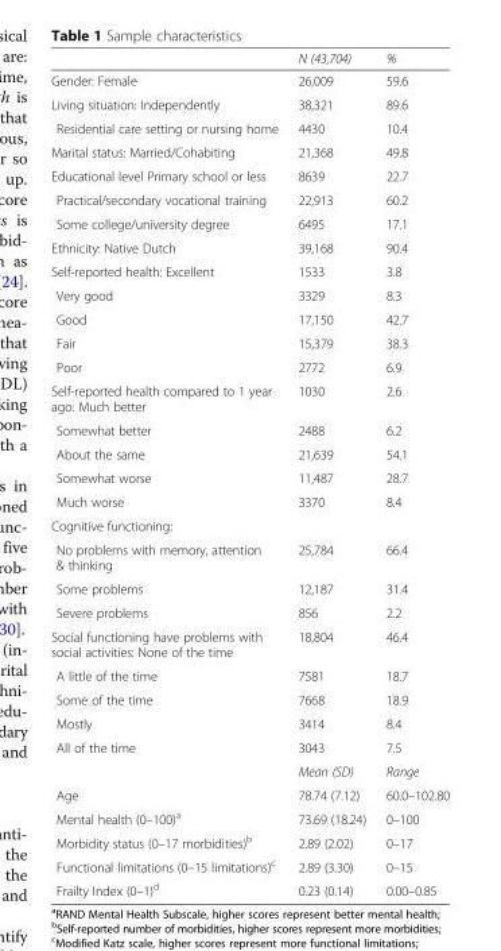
<table><thead><tr><td></td><td>N (43,704)</td><td>%</td></tr></thead><tbody><tr><td>Gender: Female</td><td>26,009</td><td>59.6</td></tr><tr><td>Living situation: Independently</td><td>38,321</td><td>89.6</td></tr><tr><td>Residential care setting or nursing home</td><td>4430</td><td>10.4</td></tr><tr><td>Marital status: Married/Cohabiting</td><td>21,368</td><td>49.8</td></tr><tr><td>Educational level Primary school or less</td><td>8639</td><td>22.7</td></tr><tr><td>Practical/secondary vocational training</td><td>22,913</td><td>60.2</td></tr><tr><td>Some college/university degree</td><td>6495</td><td>17.1</td></tr><tr><td>Ethnicity: Native Dutch</td><td>39,168</td><td>90.4</td></tr><tr><td>Self-reported health: Excellent</td><td>1533</td><td>3.8</td></tr><tr><td>Very good</td><td>3329</td><td>8.3</td></tr><tr><td>Good</td><td>17,150</td><td>42.7</td></tr><tr><td>Fair</td><td>15,379</td><td>38.3</td></tr><tr><td>Poor</td><td>2772</td><td>6.9</td></tr><tr><td>Self-reported health compared to 1 year ago: Much better</td><td>1030</td><td>2.6</td></tr><tr><td>Somewhat better</td><td>2488</td><td>6.2</td></tr><tr><td>About the same</td><td>21,639</td><td>54.1</td></tr><tr><td>Somewhat worse</td><td>11,487</td><td>28.7</td></tr><tr><td>Much worse</td><td>3370</td><td>8.4</td></tr><tr><td colspan="3">Cognitive functioning:</td></tr><tr><td>No problems with memory, attention &amp; thinking</td><td>25,784</td><td>66.4</td></tr><tr><td>Some problems</td><td>12,187</td><td>31.4</td></tr><tr><td>Severe problems</td><td>856</td><td>2.2</td></tr><tr><td>Social functioning have problems with social activities: None of the time</td><td>18,804</td><td>46.4</td></tr><tr><td>A little of the time</td><td>7581</td><td>18.7</td></tr><tr><td>Some of the time</td><td>7668</td><td>18.9</td></tr><tr><td>Mostly</td><td>3414</td><td>8.4</td></tr><tr><td rowspan="2">All of the time</td><td>3043</td><td>7.5</td></tr><tr><td>Mean (SD)</td><td>Range</td></tr><tr><td>Age</td><td>78.74 (7.12)</td><td>60.0–102.80</td></tr><tr><td>Mental health (0–100)<sup>a</sup></td><td>73.69 (18.24)</td><td>0–100</td></tr><tr><td>Morbidity status (0–17 morbidities)<sup>b</sup></td><td>2.89 (2.02)</td><td>0–17</td></tr><tr><td>Functional limitations (0–15 limitations)<sup>c</sup></td><td>2.89 (3.30)</td><td>0–15</td></tr><tr><td>Frailty Index (0–1)<sup>d</sup></td><td>0.23 (0.14)</td><td>0.00–0.85</td></tr></tbody></table>